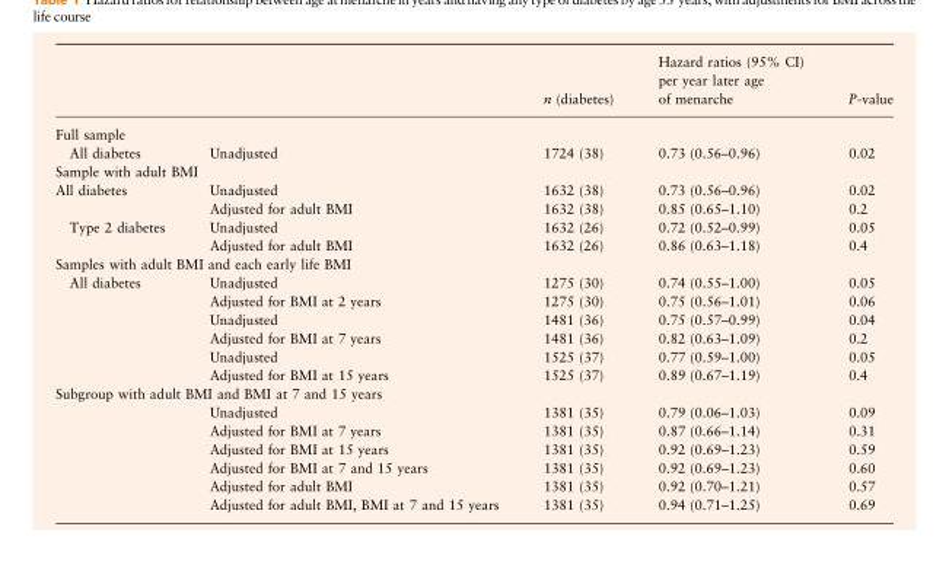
<table><thead><tr><td></td><td></td><td>n (diabetes)</td><td>Hazard ratios (95% CI) per year later age of menarche</td><td>P-value</td></tr></thead><tbody><tr><td colspan="5">Full sample</td></tr><tr><td>All diabetes</td><td>Unadjusted</td><td>1724 (38)</td><td>0.73 (0.56–0.96)</td><td>0.02</td></tr><tr><td colspan="5">Sample with adult BMI</td></tr><tr><td rowspan="2">All diabetes</td><td>Unadjusted</td><td>1632 (38)</td><td>0.73 (0.56–0.96)</td><td>0.02</td></tr><tr><td>Adjusted for adult BMI</td><td>1632 (38)</td><td>0.85 (0.65–1.10)</td><td>0.2</td></tr><tr><td rowspan="2">Type 2 diabetes</td><td>Unadjusted</td><td>1632 (26)</td><td>0.72 (0.52–0.99)</td><td>0.05</td></tr><tr><td>Adjusted for adult BMI</td><td>1632 (26)</td><td>0.86 (0.63–1.18)</td><td>0.4</td></tr><tr><td colspan="5">Samples with adult BMI and each early life BMI</td></tr><tr><td rowspan="6">All diabetes</td><td>Unadjusted</td><td>1275 (30)</td><td>0.74 (0.55–1.00)</td><td>0.05</td></tr><tr><td>Adjusted for BMI at 2 years</td><td>1275 (30)</td><td>0.75 (0.56–1.01)</td><td>0.06</td></tr><tr><td>Unadjusted</td><td>1481 (36)</td><td>0.75 (0.57–0.99)</td><td>0.04</td></tr><tr><td>Adjusted for BMI at 7 years</td><td>1481 (36)</td><td>0.82 (0.63–1.09)</td><td>0.2</td></tr><tr><td>Unadjusted</td><td>1525 (37)</td><td>0.77 (0.59–1.00)</td><td>0.05</td></tr><tr><td>Adjusted for BMI at 15 years</td><td>1525 (37)</td><td>0.89 (0.67–1.19)</td><td>0.4</td></tr><tr><td colspan="5">Subgroup with adult BMI and BMI at 7 and 15 years</td></tr><tr><td></td><td>Unadjusted</td><td>1381 (35)</td><td>0.79 (0.06–1.03)</td><td>0.09</td></tr><tr><td></td><td>Adjusted for BMI at 7 years</td><td>1381 (35)</td><td>0.87 (0.66–1.14)</td><td>0.31</td></tr><tr><td></td><td>Adjusted for BMI at 15 years</td><td>1381 (35)</td><td>0.92 (0.69–1.23)</td><td>0.59</td></tr><tr><td></td><td>Adjusted for BMI at 7 and 15 years</td><td>1381 (35)</td><td>0.92 (0.69–1.23)</td><td>0.60</td></tr><tr><td></td><td>Adjusted for adult BMI</td><td>1381 (35)</td><td>0.92 (0.70–1.21)</td><td>0.57</td></tr><tr><td></td><td>Adjusted for adult BMI, BMI at 7 and 15 years</td><td>1381 (35)</td><td>0.94 (0.71–1.25)</td><td>0.69</td></tr></tbody></table>